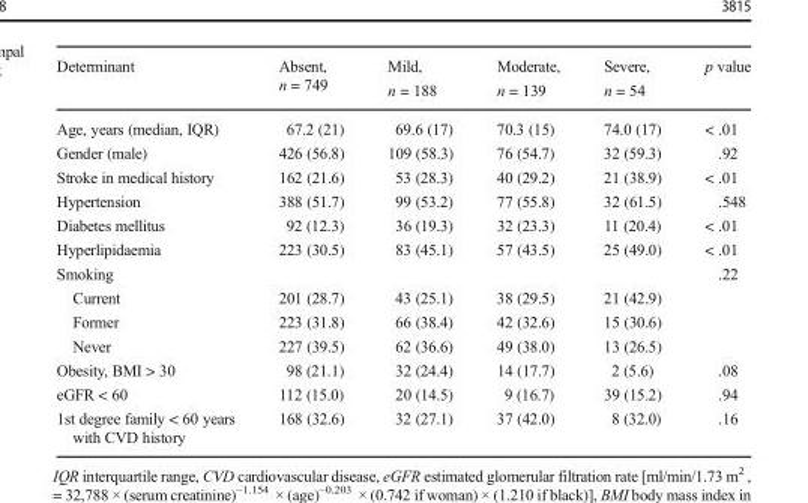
<table><thead><tr><td>Determinant</td><td>Absent, n = 749</td><td>Mild, n = 188</td><td>Moderate, n = 139</td><td>Severe, n = 54</td><td>p value</td></tr></thead><tbody><tr><td>Age, years (median, IQR)</td><td>67.2 (21)</td><td>69.6 (17)</td><td>70.3 (15)</td><td>74.0 (17)</td><td>&lt; .01</td></tr><tr><td>Gender (male)</td><td>426 (56.8)</td><td>109 (58.3)</td><td>76 (54.7)</td><td>32 (59.3)</td><td>.92</td></tr><tr><td>Stroke in medical history</td><td>162 (21.6)</td><td>53 (28.3)</td><td>40 (29.2)</td><td>21 (38.9)</td><td>&lt; .01</td></tr><tr><td>Hypertension</td><td>388 (51.7)</td><td>99 (53.2)</td><td>77 (55.8)</td><td>32 (61.5)</td><td>.548</td></tr><tr><td>Diabetes mellitus</td><td>92 (12.3)</td><td>36 (19.3)</td><td>32 (23.3)</td><td>11 (20.4)</td><td>&lt; .01</td></tr><tr><td>Hyperlipidaemia</td><td>223 (30.5)</td><td>83 (45.1)</td><td>57 (43.5)</td><td>25 (49.0)</td><td>&lt; .01</td></tr><tr><td>Smoking</td><td></td><td></td><td></td><td></td><td>.22</td></tr><tr><td>Current</td><td>201 (28.7)</td><td>43 (25.1)</td><td>38 (29.5)</td><td>21 (42.9)</td><td></td></tr><tr><td>Former</td><td>223 (31.8)</td><td>66 (38.4)</td><td>42 (32.6)</td><td>15 (30.6)</td><td></td></tr><tr><td>Never</td><td>227 (39.5)</td><td>62 (36.6)</td><td>49 (38.0)</td><td>13 (26.5)</td><td></td></tr><tr><td>Obesity, BMI &gt; 30</td><td>98 (21.1)</td><td>32 (24.4)</td><td>14 (17.7)</td><td>2 (5.6)</td><td>.08</td></tr><tr><td>eGFR &lt; 60</td><td>112 (15.0)</td><td>20 (14.5)</td><td>9 (16.7)</td><td>39 (15.2)</td><td>.94</td></tr><tr><td>1st degree family &lt; 60 years with CVD history</td><td>168 (32.6)</td><td>32 (27.1)</td><td>37 (42.0)</td><td>8 (32.0)</td><td>.16</td></tr></tbody></table>